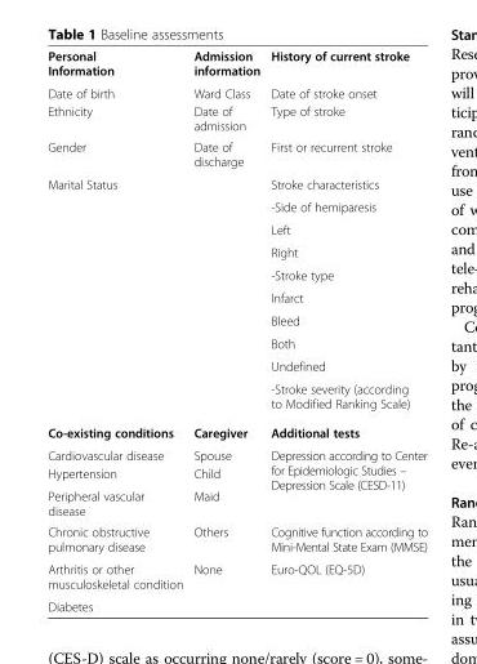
<table><tbody><tr><td>Personal Information</td><td>Admission information</td><td>History of current stroke</td></tr><tr><td>Date of birth</td><td>Ward Class</td><td>Date of stroke onset</td></tr><tr><td>Ethnicity</td><td>Date of admission</td><td>Type of stroke</td></tr><tr><td>Gender</td><td>Date of discharge</td><td>First or recurrent stroke</td></tr><tr><td rowspan="10">Marital Status</td><td rowspan="10"></td><td>Stroke characteristics</td></tr><tr><td>-Side of hemiparesis</td></tr><tr><td>Left</td></tr><tr><td>Right</td></tr><tr><td>-Stroke type</td></tr><tr><td>Infarct</td></tr><tr><td>Bleed</td></tr><tr><td>Both</td></tr><tr><td>Undefined</td></tr><tr><td>-Stroke severity (according to Modified Ranking Scale)</td></tr><tr><td>Co-existing conditions</td><td>Caregiver</td><td>Additional tests</td></tr><tr><td>Cardiovascular disease</td><td>Spouse</td><td rowspan="3">Depression according to Center for Epidemiologic Studies – Depression Scale (CESD-11)</td></tr><tr><td>Hypertension</td><td>Child</td></tr><tr><td>Peripheral vascular disease</td><td>Maid</td></tr><tr><td>Chronic obstructive pulmonary disease</td><td>Others</td><td>Cognitive function according to Mini-Mental State Exam (MMSE)</td></tr><tr><td>Arthritis or other musculoskeletal condition</td><td rowspan="2">None</td><td rowspan="2">Euro-QOL (EQ-5D)</td></tr><tr><td>Diabetes</td></tr></tbody></table>